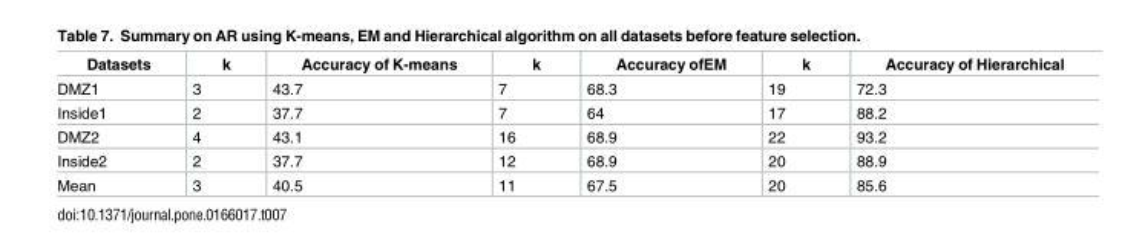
<table><thead><tr><td>Datasets</td><td>k</td><td>Accuracy of K-means</td><td>k</td><td>Accuracy ofEM</td><td>k</td><td>Accuracy of Hierarchical</td></tr></thead><tbody><tr><td>DMZ1</td><td>3</td><td>43.7</td><td>7</td><td>68.3</td><td>19</td><td>72.3</td></tr><tr><td>Inside1</td><td>2</td><td>37.7</td><td>7</td><td>64</td><td>17</td><td>88.2</td></tr><tr><td>DMZ2</td><td>4</td><td>43.1</td><td>16</td><td>68.9</td><td>22</td><td>93.2</td></tr><tr><td>Inside2</td><td>2</td><td>37.7</td><td>12</td><td>68.9</td><td>20</td><td>88.9</td></tr><tr><td>Mean</td><td>3</td><td>40.5</td><td>11</td><td>67.5</td><td>20</td><td>85.6</td></tr></tbody></table>